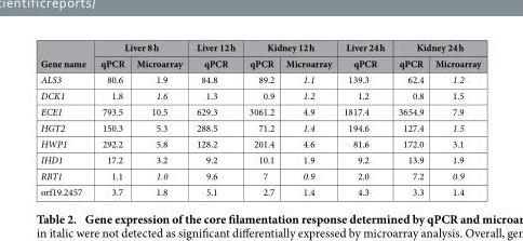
<table><thead><tr><td rowspan="2">Gene name</td><td colspan="2">Liver 8 h</td><td rowspan="2">Liver 12 h qPCR</td><td colspan="2">Kidney 12 h</td><td rowspan="2">Liver 24 h qPCR</td><td colspan="2">Kidney 24 h</td></tr><tr><td>qPCR</td><td>Microarray</td><td>qPCR</td><td>Microarray</td><td>qPCR</td><td>Microarray</td></tr></thead><tbody><tr><td>ALS3</td><td>80.6</td><td>1.9</td><td>84.8</td><td>89.2</td><td>1.1</td><td>139.3</td><td>62.4</td><td>1.2</td></tr><tr><td>DCK1</td><td>1.8</td><td>1.6</td><td>1.3</td><td>0.9</td><td>1.2</td><td>1.2</td><td>0.8</td><td>1.5</td></tr><tr><td>ECE1</td><td>793.5</td><td>10.5</td><td>629.3</td><td>3061.2</td><td>4.9</td><td>1817.4</td><td>3654.9</td><td>7.9</td></tr><tr><td>HGT2</td><td>150.3</td><td>5.3</td><td>288.5</td><td>71.2</td><td>1.4</td><td>194.6</td><td>127.4</td><td>1.5</td></tr><tr><td>HWP1</td><td>292.2</td><td>5.8</td><td>128.2</td><td>201.4</td><td>4.6</td><td>81.6</td><td>172.0</td><td>3.1</td></tr><tr><td>IHD1</td><td>17.2</td><td>3.2</td><td>9.2</td><td>10.1</td><td>1.9</td><td>9.2</td><td>13.9</td><td>1.9</td></tr><tr><td>RBT1</td><td>1.1</td><td>1.0</td><td>9.6</td><td>7</td><td>0.9</td><td>2.0</td><td>7.2</td><td>0.9</td></tr><tr><td>orf19.2457</td><td>3.7</td><td>1.8</td><td>5.1</td><td>2.7</td><td>1.4</td><td>4.3</td><td>3.3</td><td>1.4</td></tr></tbody></table>